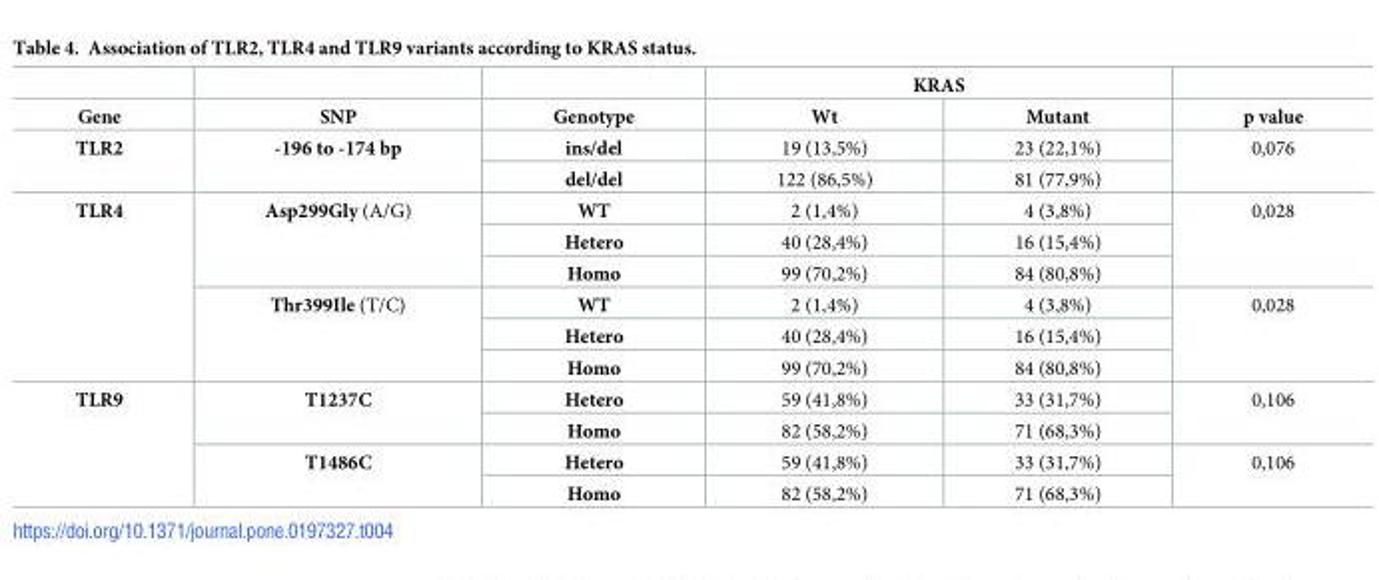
<table><thead><tr><td rowspan="2">Gene</td><td rowspan="2">SNP</td><td rowspan="2">Genotype</td><td colspan="2">KRAS</td><td rowspan="2">p value</td></tr><tr><td>Wt</td><td>Mutant</td></tr></thead><tbody><tr><td rowspan="2">TLR2</td><td rowspan="2">-196 to -174 bp</td><td>ins/del</td><td>19 (13,5%)</td><td>23 (22,1%)</td><td rowspan="2">0,076</td></tr><tr><td>del/del</td><td>122 (86,5%)</td><td>81 (77,9%)</td></tr><tr><td rowspan="6">TLR4</td><td rowspan="3">Asp299Gly (A/G)</td><td>WT</td><td>2 (1,4%)</td><td>4 (3,8%)</td><td rowspan="3">0,028</td></tr><tr><td>Hetero</td><td>40 (28,4%)</td><td>16 (15,4%)</td></tr><tr><td>Homo</td><td>99 (70,2%)</td><td>84 (80,8%)</td></tr><tr><td rowspan="3">Thr399Ile (T/C)</td><td>WT</td><td>2 (1,4%)</td><td>4 (3,8%)</td><td rowspan="3">0,028</td></tr><tr><td>Hetero</td><td>40 (28,4%)</td><td>16 (15,4%)</td></tr><tr><td>Homo</td><td>99 (70,2%)</td><td>84 (80,8%)</td></tr><tr><td rowspan="4">TLR9</td><td rowspan="2">T1237C</td><td>Hetero</td><td>59 (41,8%)</td><td>33 (31,7%)</td><td rowspan="2">0,106</td></tr><tr><td>Homo</td><td>82 (58,2%)</td><td>71 (68,3%)</td></tr><tr><td rowspan="2">T1486C</td><td>Hetero</td><td>59 (41,8%)</td><td>33 (31,7%)</td><td rowspan="2">0,106</td></tr><tr><td>Homo</td><td>82 (58,2%)</td><td>71 (68,3%)</td></tr></tbody></table>